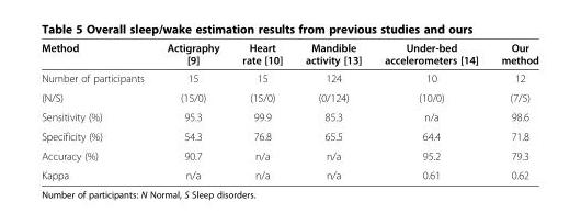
<table><thead><tr><td>Method</td><td>Actigraphy [9]</td><td>Heart rate [10]</td><td>Mandible activity [13]</td><td>Under-bed accelerometers [14]</td><td>Our method</td></tr></thead><tbody><tr><td>Number of participants</td><td>15</td><td>15</td><td>124</td><td>10</td><td>12</td></tr><tr><td>(N/S)</td><td>(15/0)</td><td>(15/0)</td><td>(0/124)</td><td>(10/0)</td><td>(7/5)</td></tr><tr><td>Sensitivity (%)</td><td>95.3</td><td>99.9</td><td>85.3</td><td>n/a</td><td>98.6</td></tr><tr><td>Specificity (%)</td><td>54.3</td><td>76.8</td><td>65.5</td><td>64.4</td><td>71.8</td></tr><tr><td>Accuracy (%)</td><td>90.7</td><td>n/a</td><td>n/a</td><td>95.2</td><td>79.3</td></tr><tr><td>Kappa</td><td>n/a</td><td>n/a</td><td>n/a</td><td>0.61</td><td>0.62</td></tr></tbody></table>